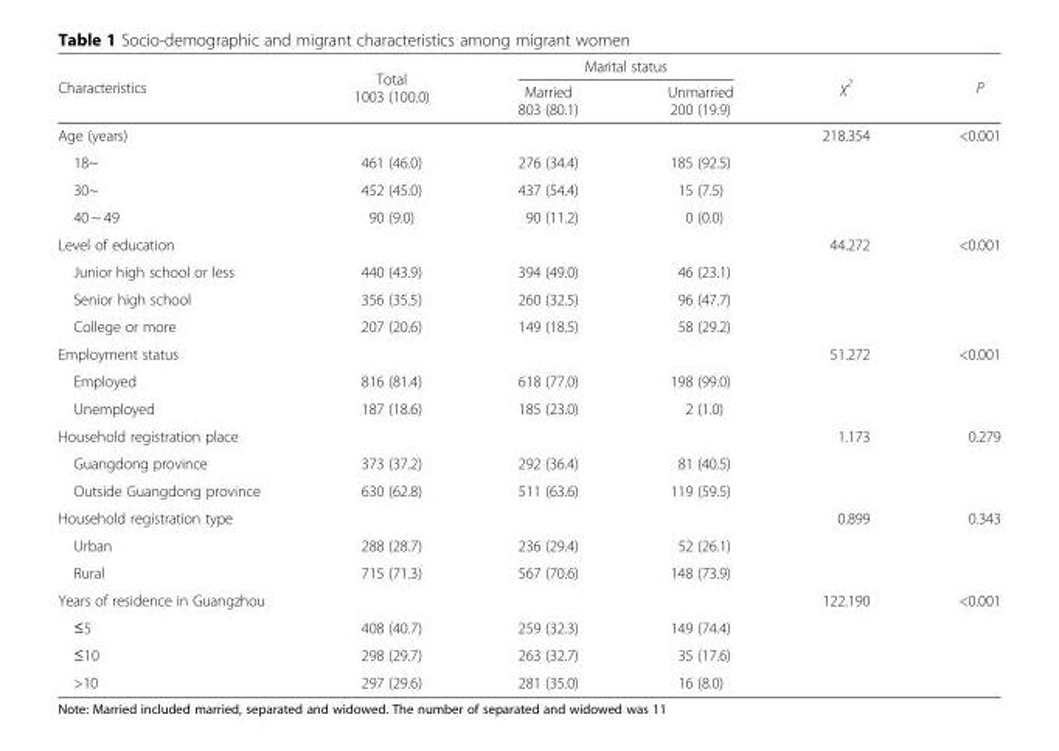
<table><thead><tr><td rowspan="2">Characteristics</td><td rowspan="2">Total 1003 (100.0)</td><td colspan="2">Marital status</td><td rowspan="2">χ<sup>2</sup></td><td rowspan="2">P</td></tr><tr><td>Married 803 (80.1)</td><td>Unmarried 200 (19.9)</td></tr></thead><tbody><tr><td>Age (years)</td><td></td><td></td><td></td><td>218.354</td><td>&lt;0.001</td></tr><tr><td>18~</td><td>461 (46.0)</td><td>276 (34.4)</td><td>185 (92.5)</td><td></td><td></td></tr><tr><td>30~</td><td>452 (45.0)</td><td>437 (54.4)</td><td>15 (7.5)</td><td></td><td></td></tr><tr><td>40 ~ 49</td><td>90 (9.0)</td><td>90 (11.2)</td><td>0 (0.0)</td><td></td><td></td></tr><tr><td>Level of education</td><td></td><td></td><td></td><td>44.272</td><td>&lt;0.001</td></tr><tr><td>Junior high school or less</td><td>440 (43.9)</td><td>394 (49.0)</td><td>46 (23.1)</td><td></td><td></td></tr><tr><td>Senior high school</td><td>356 (35.5)</td><td>260 (32.5)</td><td>96 (47.7)</td><td></td><td></td></tr><tr><td>College or more</td><td>207 (20.6)</td><td>149 (18.5)</td><td>58 (29.2)</td><td></td><td></td></tr><tr><td>Employment status</td><td></td><td></td><td></td><td>51.272</td><td>&lt;0.001</td></tr><tr><td>Employed</td><td>816 (81.4)</td><td>618 (77.0)</td><td>198 (99.0)</td><td></td><td></td></tr><tr><td>Unemployed</td><td>187 (18.6)</td><td>185 (23.0)</td><td>2 (1.0)</td><td></td><td></td></tr><tr><td>Household registration place</td><td></td><td></td><td></td><td>1.173</td><td>0.279</td></tr><tr><td>Guangdong province</td><td>373 (37.2)</td><td>292 (36.4)</td><td>81 (40.5)</td><td></td><td></td></tr><tr><td>Outside Guangdong province</td><td>630 (62.8)</td><td>511 (63.6)</td><td>119 (59.5)</td><td></td><td></td></tr><tr><td>Household registration type</td><td></td><td></td><td></td><td>0.899</td><td>0.343</td></tr><tr><td>Urban</td><td>288 (28.7)</td><td>236 (29.4)</td><td>52 (26.1)</td><td></td><td></td></tr><tr><td>Rural</td><td>715 (71.3)</td><td>567 (70.6)</td><td>148 (73.9)</td><td></td><td></td></tr><tr><td>Years of residence in Guangzhou</td><td></td><td></td><td></td><td>122.190</td><td>&lt;0.001</td></tr><tr><td>≤5</td><td>408 (40.7)</td><td>259 (32.3)</td><td>149 (74.4)</td><td></td><td></td></tr><tr><td>≤10</td><td>298 (29.7)</td><td>263 (32.7)</td><td>35 (17.6)</td><td></td><td></td></tr><tr><td>&gt;10</td><td>297 (29.6)</td><td>281 (35.0)</td><td>16 (8.0)</td><td></td><td></td></tr></tbody></table>